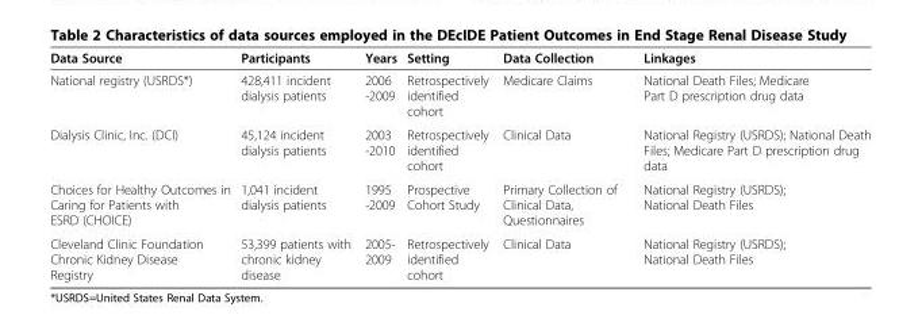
<table><thead><tr><td>Data Source</td><td>Participants</td><td>Years</td><td>Setting</td><td>Data Collection</td><td>Linkages</td></tr></thead><tbody><tr><td>National registry (USRDS*)</td><td>428,411 incident dialysis patients</td><td>2006 -2009</td><td>Retrospectively identified cohort</td><td>Medicare Claims</td><td>National Death Files; Medicare Part D prescription drug data</td></tr><tr><td>Dialysis Clinic, Inc. (DCI)</td><td>45,124 incident dialysis patients</td><td>2003 -2010</td><td>Retrospectively identified cohort</td><td>Clinical Data</td><td>National Registry (USRDS); National Death Files; Medicare Part D prescription drug data</td></tr><tr><td>Choices for Healthy Outcomes in Caring for Patients with ESRD (CHOICE)</td><td>1,041 incident dialysis patients</td><td>1995 -2009</td><td>Prospective Cohort Study</td><td>Primary Collection of Clinical Data, Questionnaires</td><td>National Registry (USRDS); National Death Files</td></tr><tr><td>Cleveland Clinic Foundation Chronic Kidney Disease Registry</td><td>53,399 patients with chronic kidney disease</td><td>2005- 2009</td><td>Retrospectively identified cohort</td><td>Clinical Data</td><td>National Registry (USRDS); National Death Files</td></tr></tbody></table>